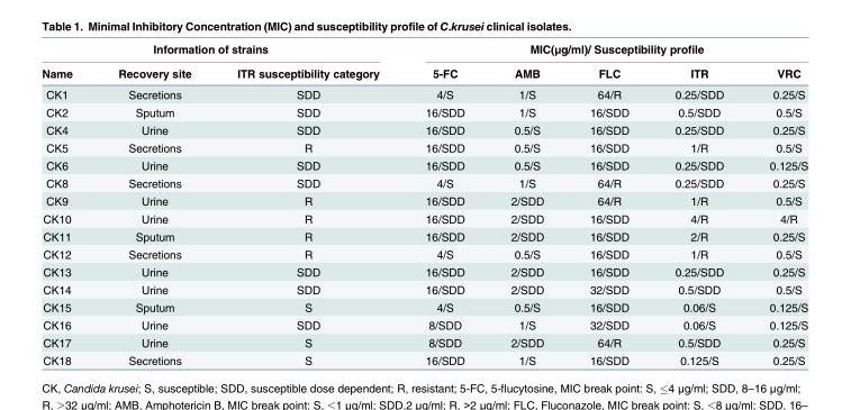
<table><thead><tr><td colspan="3">Information of strains</td><td colspan="5">MIC(μg/ml)/ Susceptibility profile</td></tr><tr><td>Name</td><td>Recovery site</td><td>ITR susceptibility category</td><td>5-FC</td><td>AMB</td><td>FLC</td><td>ITR</td><td>VRC</td></tr></thead><tbody><tr><td>CK1</td><td>Secretions</td><td>SDD</td><td>4/S</td><td>1/S</td><td>64/R</td><td>0.25/SDD</td><td>0.25/S</td></tr><tr><td>CK2</td><td>Sputum</td><td>SDD</td><td>16/SDD</td><td>1/S</td><td>16/SDD</td><td>0.5/SDD</td><td>0.5/S</td></tr><tr><td>CK4</td><td>Urine</td><td>SDD</td><td>16/SDD</td><td>0.5/S</td><td>16/SDD</td><td>0.25/SDD</td><td>0.25/S</td></tr><tr><td>CK5</td><td>Secretions</td><td>R</td><td>16/SDD</td><td>0.5/S</td><td>16/SDD</td><td>1/R</td><td>0.5/S</td></tr><tr><td>CK6</td><td>Urine</td><td>SDD</td><td>16/SDD</td><td>0.5/S</td><td>16/SDD</td><td>0.25/SDD</td><td>0.125/S</td></tr><tr><td>CK8</td><td>Secretions</td><td>SDD</td><td>4/S</td><td>1/S</td><td>64/R</td><td>0.25/SDD</td><td>0.25/S</td></tr><tr><td>CK9</td><td>Urine</td><td>R</td><td>16/SDD</td><td>2/SDD</td><td>64/R</td><td>1/R</td><td>0.5/S</td></tr><tr><td>CK10</td><td>Urine</td><td>R</td><td>16/SDD</td><td>2/SDD</td><td>16/SDD</td><td>4/R</td><td>4/R</td></tr><tr><td>CK11</td><td>Sputum</td><td>R</td><td>16/SDD</td><td>2/SDD</td><td>16/SDD</td><td>2/R</td><td>0.25/S</td></tr><tr><td>CK12</td><td>Secretions</td><td>R</td><td>4/S</td><td>0.5/S</td><td>16/SDD</td><td>1/R</td><td>0.5/S</td></tr><tr><td>CK13</td><td>Urine</td><td>SDD</td><td>16/SDD</td><td>2/SDD</td><td>16/SDD</td><td>0.25/SDD</td><td>0.25/S</td></tr><tr><td>CK14</td><td>Urine</td><td>SDD</td><td>16/SDD</td><td>2/SDD</td><td>32/SDD</td><td>0.5/SDD</td><td>0.5/S</td></tr><tr><td>CK15</td><td>Sputum</td><td>S</td><td>4/S</td><td>0.5/S</td><td>16/SDD</td><td>0.06/S</td><td>0.125/S</td></tr><tr><td>CK16</td><td>Urine</td><td>SDD</td><td>8/SDD</td><td>1/S</td><td>32/SDD</td><td>0.06/S</td><td>0.125/S</td></tr><tr><td>CK17</td><td>Urine</td><td>S</td><td>8/SDD</td><td>2/SDD</td><td>64/R</td><td>0.5/SDD</td><td>0.25/S</td></tr><tr><td>CK18</td><td>Secretions</td><td>S</td><td>16/SDD</td><td>1/S</td><td>16/SDD</td><td>0.125/S</td><td>0.25/S</td></tr></tbody></table>